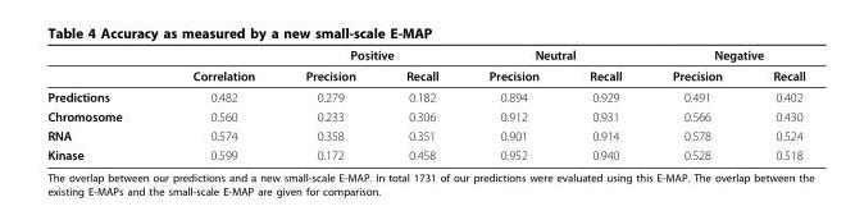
<table><thead><tr><td rowspan="2"></td><td rowspan="2">Correlation</td><td colspan="2">Positive</td><td colspan="2">Neutral</td><td colspan="2">Negative</td></tr><tr><td>Precision</td><td>Recall</td><td>Precision</td><td>Recall</td><td>Precision</td><td>Recall</td></tr></thead><tbody><tr><td>Predictions</td><td>0.482</td><td>0.279</td><td>0.182</td><td>0.894</td><td>0.929</td><td>0.491</td><td>0.402</td></tr><tr><td>Chromosome</td><td>0.560</td><td>0.233</td><td>0.306</td><td>0.912</td><td>0.931</td><td>0.566</td><td>0.430</td></tr><tr><td>RNA</td><td>0.574</td><td>0.358</td><td>0.351</td><td>0.901</td><td>0.914</td><td>0.578</td><td>0.524</td></tr><tr><td>Kinase</td><td>0.599</td><td>0.172</td><td>0.458</td><td>0.952</td><td>0.940</td><td>0.528</td><td>0.518</td></tr></tbody></table>